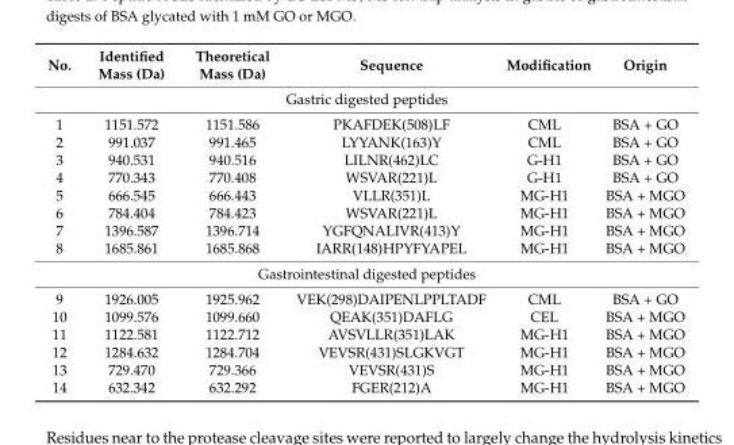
<table><thead><tr><td>No.</td><td>Identified Mass (Da)</td><td>Theoretical Mass (Da)</td><td>Sequence</td><td>Modification</td><td>Origin</td></tr></thead><tbody><tr><td colspan="6">Gastric digested peptides</td></tr><tr><td>1</td><td>1151.572</td><td>1151.586</td><td>PKAFDEK(508)LF</td><td>CML</td><td>BSA + GO</td></tr><tr><td>2</td><td>991.037</td><td>991.465</td><td>LYYANK(163)Y</td><td>CML</td><td>BSA + GO</td></tr><tr><td>3</td><td>940.531</td><td>940.516</td><td>LILNR(462)LC</td><td>G-H1</td><td>BSA + GO</td></tr><tr><td>4</td><td>770.343</td><td>770.408</td><td>WSVAR(221)L</td><td>G-H1</td><td>BSA + GO</td></tr><tr><td>5</td><td>666.545</td><td>666.443</td><td>VLLR(351)L</td><td>MG-H1</td><td>BSA + MGO</td></tr><tr><td>6</td><td>784.404</td><td>784.423</td><td>WSVAR(221)L</td><td>MG-H1</td><td>BSA + MGO</td></tr><tr><td>7</td><td>1396.587</td><td>1396.714</td><td>YGFQNALIVR(413)Y</td><td>MG-H1</td><td>BSA + MGO</td></tr><tr><td>8</td><td>1685.861</td><td>1685.868</td><td>IARR(148)HPYFYAPEL</td><td>MG-H1</td><td>BSA + MGO</td></tr><tr><td colspan="6">Gastrointestinal digested peptides</td></tr><tr><td>9</td><td>1926.005</td><td>1925.962</td><td>VEK(298)DAIPENLPPLTADF</td><td>CML</td><td>BSA + GO</td></tr><tr><td>10</td><td>1099.576</td><td>1099.660</td><td>QEAK(351)DAFLG</td><td>CEL</td><td>BSA + MGO</td></tr><tr><td>11</td><td>1122.581</td><td>1122.712</td><td>AVSVLLR(351)LAK</td><td>MG-H1</td><td>BSA + MGO</td></tr><tr><td>12</td><td>1284.632</td><td>1284.704</td><td>VEVSR(431)SLGKVGT</td><td>MG-H1</td><td>BSA + MGO</td></tr><tr><td>13</td><td>729.470</td><td>729.366</td><td>VEVSR(431)S</td><td>MG-H1</td><td>BSA + MGO</td></tr><tr><td>14</td><td>632.342</td><td>632.292</td><td>FGER(212)A</td><td>MG-H1</td><td>BSA + MGO</td></tr></tbody></table>